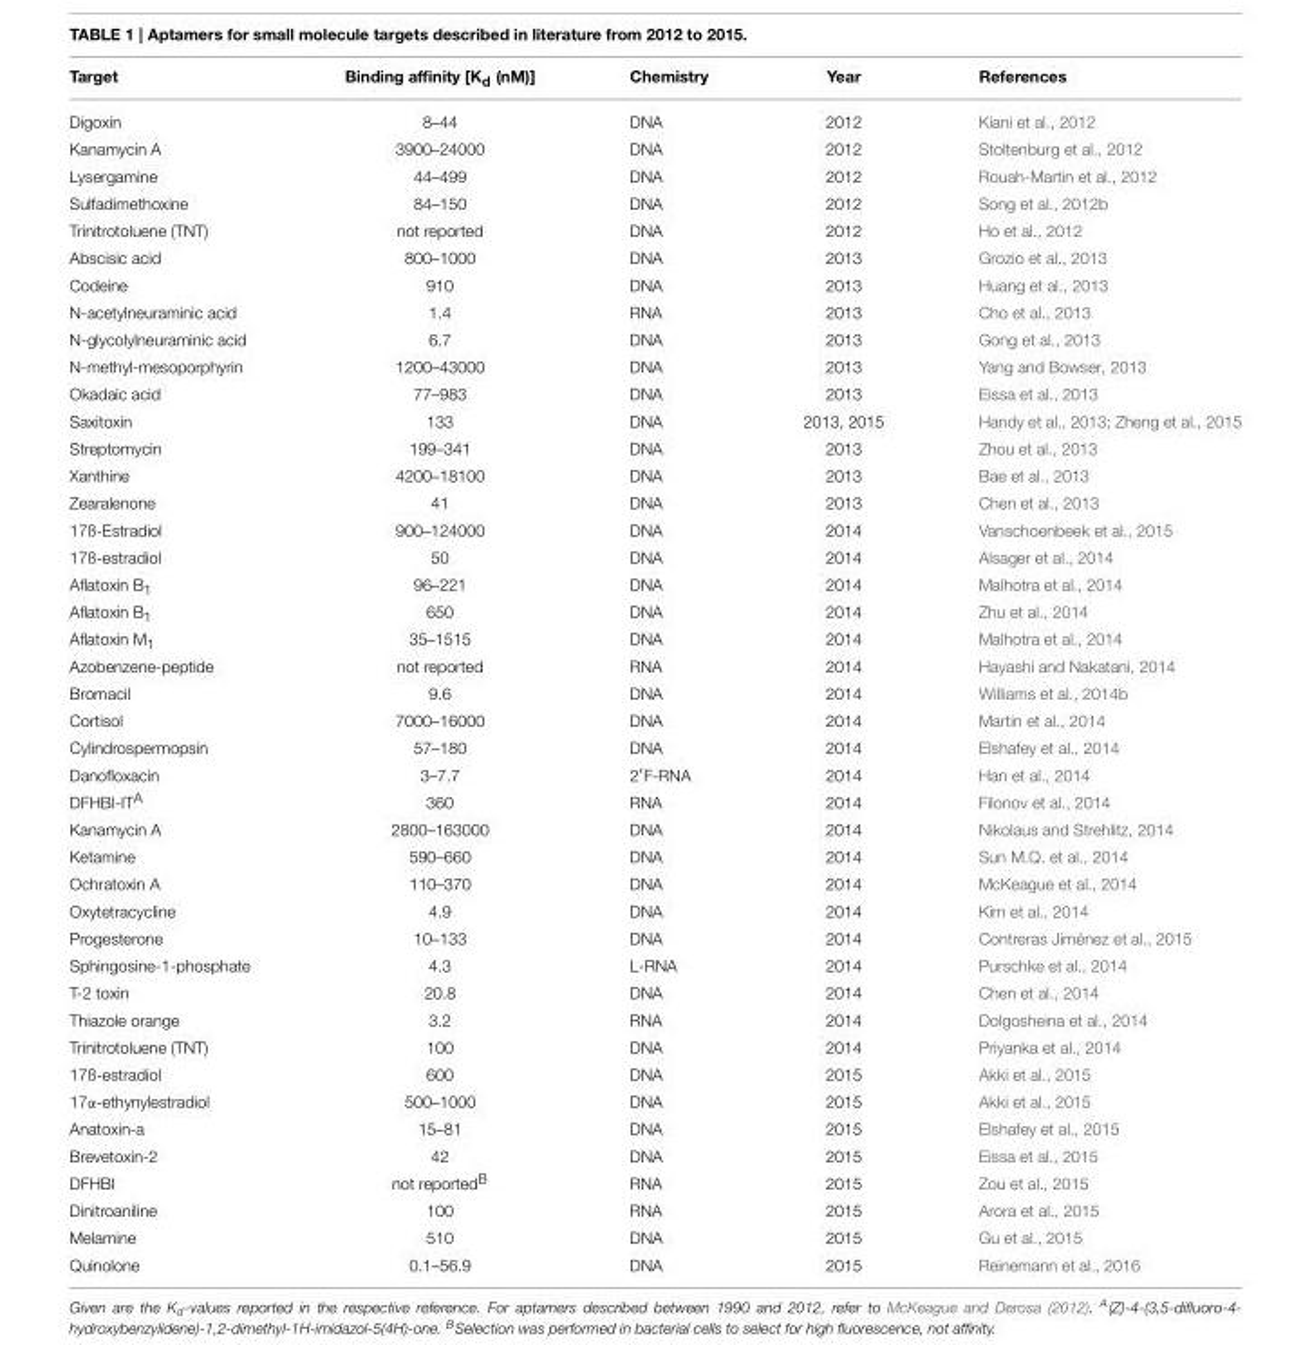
<table><thead><tr><td>Target</td><td>Binding affinity [K<sub>d</sub> (nM)]</td><td>Chemistry</td><td>Year</td><td>References</td></tr></thead><tbody><tr><td>Digoxin</td><td>8–44</td><td>DNA</td><td>2012</td><td>Kiani et al., 2012</td></tr><tr><td>Kanamycin A</td><td>3900–24000</td><td>DNA</td><td>2012</td><td>Stoltenburg et al., 2012</td></tr><tr><td>Lysergamine</td><td>44–499</td><td>DNA</td><td>2012</td><td>Rouah-Martin et al., 2012</td></tr><tr><td>Sulfadimethoxine</td><td>84–150</td><td>DNA</td><td>2012</td><td>Song et al., 2012b</td></tr><tr><td>Trinitrotoluene (TNT)</td><td>not reported</td><td>DNA</td><td>2012</td><td>Ho et al., 2012</td></tr><tr><td>Abscisic acid</td><td>800–1000</td><td>DNA</td><td>2013</td><td>Grozio et al., 2013</td></tr><tr><td>Codeine</td><td>910</td><td>DNA</td><td>2013</td><td>Huang et al., 2013</td></tr><tr><td>N-acetylneuraminic acid</td><td>1.4</td><td>RNA</td><td>2013</td><td>Cho et al., 2013</td></tr><tr><td>N-glycolylneuraminic acid</td><td>6.7</td><td>DNA</td><td>2013</td><td>Gong et al., 2013</td></tr><tr><td>N-methyl-mesoporphyrin</td><td>1200–43000</td><td>DNA</td><td>2013</td><td>Yang and Bowser, 2013</td></tr><tr><td>Okadaic acid</td><td>77–983</td><td>DNA</td><td>2013</td><td>Eissa et al., 2013</td></tr><tr><td>Saxitoxin</td><td>133</td><td>DNA</td><td>2013, 2015</td><td>Handy et al., 2013; Zheng et al., 2015</td></tr><tr><td>Streptomycin</td><td>199–341</td><td>DNA</td><td>2013</td><td>Zhou et al., 2013</td></tr><tr><td>Xanthine</td><td>4200–18100</td><td>DNA</td><td>2013</td><td>Bae et al., 2013</td></tr><tr><td>Zearalenone</td><td>41</td><td>DNA</td><td>2013</td><td>Chen et al., 2013</td></tr><tr><td>17ß-Estradiol</td><td>900–124000</td><td>DNA</td><td>2014</td><td>Vanschoenbeek et al., 2015</td></tr><tr><td>17ß-estradiol</td><td>50</td><td>DNA</td><td>2014</td><td>Alsager et al., 2014</td></tr><tr><td>Aflatoxin B<sub>1</sub></td><td>96–221</td><td>DNA</td><td>2014</td><td>Malhotra et al., 2014</td></tr><tr><td>Aflatoxin B<sub>1</sub></td><td>650</td><td>DNA</td><td>2014</td><td>Zhu et al., 2014</td></tr><tr><td>Aflatoxin M<sub>1</sub></td><td>35–1515</td><td>DNA</td><td>2014</td><td>Malhotra et al., 2014</td></tr><tr><td>Azobenzene-peptide</td><td>not reported</td><td>RNA</td><td>2014</td><td>Hayashi and Nakatani, 2014</td></tr><tr><td>Bromacil</td><td>9.6</td><td>DNA</td><td>2014</td><td>Williams et al., 2014b</td></tr><tr><td>Cortisol</td><td>7000–16000</td><td>DNA</td><td>2014</td><td>Martin et al., 2014</td></tr><tr><td>Cylindrospermopsin</td><td>57–180</td><td>DNA</td><td>2014</td><td>Elshafey et al., 2014</td></tr><tr><td>Danofloxacin</td><td>3–7.7</td><td>2′F-RNA</td><td>2014</td><td>Han et al., 2014</td></tr><tr><td>DFHBI-IT<sup>A</sup></td><td>360</td><td>RNA</td><td>2014</td><td>Filonov et al., 2014</td></tr><tr><td>Kanamycin A</td><td>2800–163000</td><td>DNA</td><td>2014</td><td>Nikolaus and Strehlitz, 2014</td></tr><tr><td>Ketamine</td><td>590–660</td><td>DNA</td><td>2014</td><td>Sun M.Q. et al., 2014</td></tr><tr><td>Ochratoxin A</td><td>110–370</td><td>DNA</td><td>2014</td><td>McKeague et al., 2014</td></tr><tr><td>Oxytetracycline</td><td>4.9</td><td>DNA</td><td>2014</td><td>Kim et al., 2014</td></tr><tr><td>Progesterone</td><td>10–133</td><td>DNA</td><td>2014</td><td>Contreras Jiménez et al., 2015</td></tr><tr><td>Sphingosine-1-phosphate</td><td>4.3</td><td>L-RNA</td><td>2014</td><td>Purschke et al., 2014</td></tr><tr><td>T-2 toxin</td><td>20.8</td><td>DNA</td><td>2014</td><td>Chen et al., 2014</td></tr><tr><td>Thiazole orange</td><td>3.2</td><td>RNA</td><td>2014</td><td>Dolgosheina et al., 2014</td></tr><tr><td>Trinitrotoluene (TNT)</td><td>100</td><td>DNA</td><td>2014</td><td>Priyanka et al., 2014</td></tr><tr><td>17ß-estradiol</td><td>600</td><td>DNA</td><td>2015</td><td>Akki et al., 2015</td></tr><tr><td>17α-ethynylestradiol</td><td>500–1000</td><td>DNA</td><td>2015</td><td>Akki et al., 2015</td></tr><tr><td>Anatoxin-a</td><td>15–81</td><td>DNA</td><td>2015</td><td>Elshafey et al., 2015</td></tr><tr><td>Brevetoxin-2</td><td>42</td><td>DNA</td><td>2015</td><td>Eissa et al., 2015</td></tr><tr><td>DFHBI</td><td>not reported<sup>B</sup></td><td>RNA</td><td>2015</td><td>Zou et al., 2015</td></tr><tr><td>Dinitroaniline</td><td>100</td><td>RNA</td><td>2015</td><td>Arora et al., 2015</td></tr><tr><td>Melamine</td><td>510</td><td>DNA</td><td>2015</td><td>Gu et al., 2015</td></tr><tr><td>Quinolone</td><td>0.1–56.9</td><td>DNA</td><td>2015</td><td>Reinemann et al., 2016</td></tr></tbody></table>